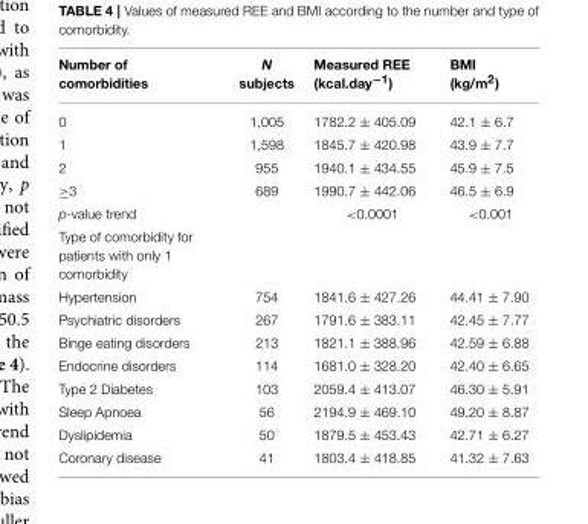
<table><thead><tr><td>Number of comorbidities</td><td>N subjects</td><td>Measured REE (kcal.day<sup>−1</sup>)</td><td>BMI (kg/m<sup>2</sup>)</td></tr></thead><tbody><tr><td>0</td><td>1,005</td><td>1782.2 ± 405.09</td><td>42.1 ± 6.7</td></tr><tr><td>1</td><td>1,598</td><td>1845.7 ± 420.98</td><td>43.9 ± 7.7</td></tr><tr><td>2</td><td>955</td><td>1940.1 ± 434.55</td><td>45.9 ± 7.5</td></tr><tr><td>≥3</td><td>689</td><td>1990.7 ± 442.06</td><td>46.5 ± 6.9</td></tr><tr><td>p-value trend</td><td></td><td>&lt;0.0001</td><td>&lt;0.001</td></tr><tr><td colspan="4">Type of comorbidity for patients with only 1 comorbidity</td></tr><tr><td>Hypertension</td><td>754</td><td>1841.6 ± 427.26</td><td>44.41 ± 7.90</td></tr><tr><td>Psychiatric disorders</td><td>267</td><td>1791.6 ± 383.11</td><td>42.45 ± 7.77</td></tr><tr><td>Binge eating disorders</td><td>213</td><td>1821.1 ± 388.96</td><td>42.59 ± 6.88</td></tr><tr><td>Endocrine disorders</td><td>114</td><td>1681.0 ± 328.20</td><td>42.40 ± 6.65</td></tr><tr><td>Type 2 Diabetes</td><td>103</td><td>2059.4 ± 413.07</td><td>46.30 ± 5.91</td></tr><tr><td>Sleep Apnoea</td><td>56</td><td>2194.9 ± 469.10</td><td>49.20 ± 8.87</td></tr><tr><td>Dyslipidemia</td><td>50</td><td>1879.5 ± 453.43</td><td>42.71 ± 6.27</td></tr><tr><td>Coronary disease</td><td>41</td><td>1803.4 ± 418.85</td><td>41.32 ± 7.63</td></tr></tbody></table>